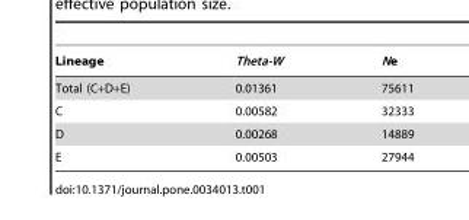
<table><thead><tr><td>Lineage</td><td>Theta-W</td><td>Ne</td></tr></thead><tbody><tr><td>Total (C+D+E)</td><td>0.01361</td><td>75611</td></tr><tr><td>C</td><td>0.00582</td><td>32333</td></tr><tr><td>D</td><td>0.00268</td><td>14889</td></tr><tr><td>E</td><td>0.00503</td><td>27944</td></tr></tbody></table>